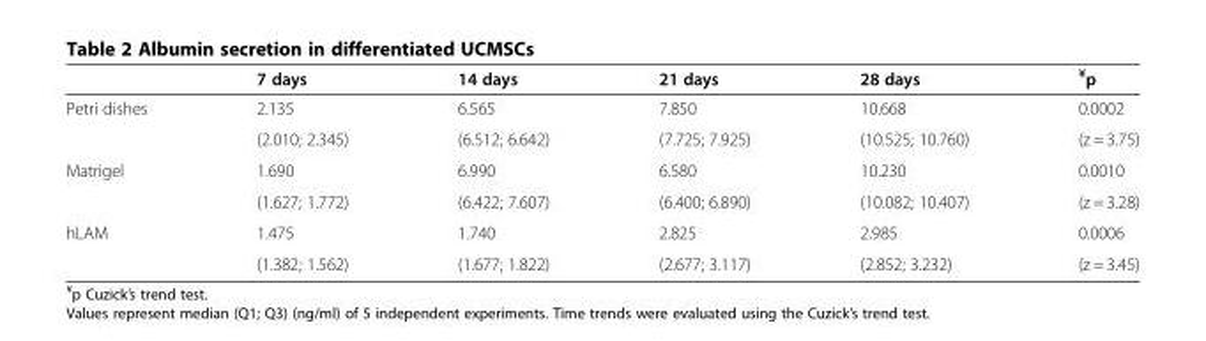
<table><thead><tr><td></td><td>7 days</td><td>14 days</td><td>21 days</td><td>28 days</td><td><sup>¥</sup>p</td></tr></thead><tbody><tr><td rowspan="2">Petri dishes</td><td>2.135</td><td>6.565</td><td>7.850</td><td>10.668</td><td>0.0002</td></tr><tr><td>(2.010; 2.345)</td><td>(6.512; 6.642)</td><td>(7.725; 7.925)</td><td>(10.525; 10.760)</td><td>(z = 3.75)</td></tr><tr><td rowspan="2">Matrigel</td><td>1.690</td><td>6.990</td><td>6.580</td><td>10.230</td><td>0.0010</td></tr><tr><td>(1.627; 1.772)</td><td>(6.422; 7.607)</td><td>(6.400; 6.890)</td><td>(10.082; 10.407)</td><td>(z = 3.28)</td></tr><tr><td rowspan="2">hLAM</td><td>1.475</td><td>1.740</td><td>2.825</td><td>2.985</td><td>0.0006</td></tr><tr><td>(1.382; 1.562)</td><td>(1.677; 1.822)</td><td>(2.677; 3.117)</td><td>(2.852; 3.232)</td><td>(z = 3.45)</td></tr></tbody></table>